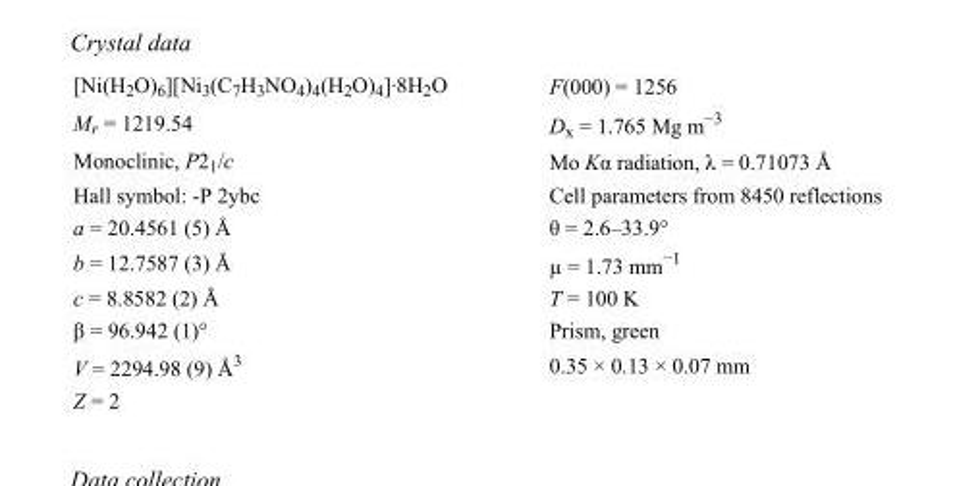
<table><tbody><tr><td>[Ni(H<sub>2</sub>O)<sub>6</sub>][Ni<sub>3</sub>(C<sub>7</sub>H<sub>3</sub>NO<sub>4</sub>)<sub>4</sub>(H<sub>2</sub>O)<sub>4</sub>]·8H<sub>2</sub>O</td><td>F(000) = 1256</td></tr><tr><td>M<sub>r</sub> = 1219.54</td><td>D<sub>x</sub> = 1.765 Mg m<sup>−3</sup></td></tr><tr><td>Monoclinic, P2<sub>1</sub>/c</td><td>Mo Kα radiation, λ = 0.71073 Å</td></tr><tr><td>Hall symbol: -P 2ybc</td><td>Cell parameters from 8450 reflections</td></tr><tr><td>a = 20.4561 (5) Å</td><td>θ = 2.6–33.9°</td></tr><tr><td>b = 12.7587 (3) Å</td><td>µ = 1.73 mm<sup>−1</sup></td></tr><tr><td>c = 8.8582 (2) Å</td><td>T = 100 K</td></tr><tr><td>β = 96.942 (1)°</td><td>Prism, green</td></tr><tr><td>V = 2294.98 (9) Å<sup>3</sup></td><td>0.35 × 0.13 × 0.07 mm</td></tr><tr><td>Z = 2</td><td></td></tr></tbody></table>